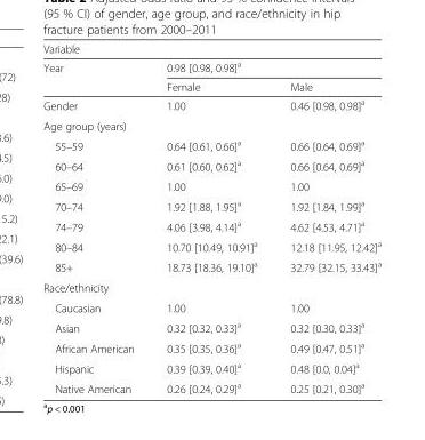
<table><thead><tr><td colspan="3">Variable</td></tr><tr><td rowspan="2">Year</td><td colspan="2">0.98 [0.98, 0.98]<sup>a</sup></td></tr><tr><td>Female</td><td>Male</td></tr></thead><tbody><tr><td>Gender</td><td>1.00</td><td>0.46 [0.98, 0.98]<sup>a</sup></td></tr><tr><td colspan="3">Age group (years)</td></tr><tr><td>55–59</td><td>0.64 [0.61, 0.66]<sup>a</sup></td><td>0.66 [0.64, 0.69]<sup>a</sup></td></tr><tr><td>60–64</td><td>0.61 [0.60, 0.62]<sup>a</sup></td><td>0.66 [0.64, 0.69]<sup>a</sup></td></tr><tr><td>65–69</td><td>1.00</td><td>1.00</td></tr><tr><td>70–74</td><td>1.92 [1.88, 1.95]<sup>a</sup></td><td>1.92 [1.84, 1.99]<sup>a</sup></td></tr><tr><td>74–79</td><td>4.06 [3.98, 4.14]<sup>a</sup></td><td>4.62 [4.53, 4.71]<sup>a</sup></td></tr><tr><td>80–84</td><td>10.70 [10.49, 10.91]<sup>a</sup></td><td>12.18 [11.95, 12.42]<sup>a</sup></td></tr><tr><td>85+</td><td>18.73 [18.36, 19.10]<sup>a</sup></td><td>32.79 [32.15, 33.43]<sup>a</sup></td></tr><tr><td colspan="3">Race/ethnicity</td></tr><tr><td>Caucasian</td><td>1.00</td><td>1.00</td></tr><tr><td>Asian</td><td>0.32 [0.32, 0.33]<sup>a</sup></td><td>0.32 [0.30, 0.33]<sup>a</sup></td></tr><tr><td>African American</td><td>0.35 [0.35, 0.36]<sup>a</sup></td><td>0.49 [0.47, 0.51]<sup>a</sup></td></tr><tr><td>Hispanic</td><td>0.39 [0.39, 0.40]<sup>a</sup></td><td>0.48 [0.0, 0.04]<sup>a</sup></td></tr><tr><td>Native American</td><td>0.26 [0.24, 0.29]<sup>a</sup></td><td>0.25 [0.21, 0.30]<sup>a</sup></td></tr></tbody></table>